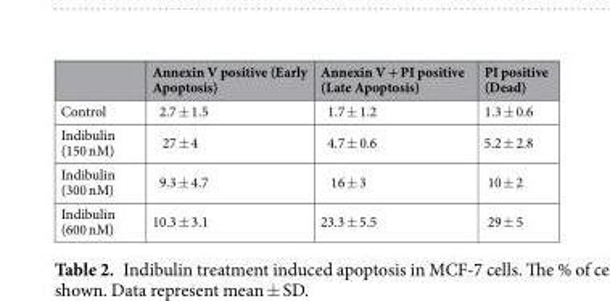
<table><thead><tr><td></td><td>Annexin V positive (Early Apoptosis)</td><td>Annexin V + PI positive (Late Apoptosis)</td><td>PI positive (Dead)</td></tr></thead><tbody><tr><td>Control</td><td>2.7 ± 1.5</td><td>1.7 ± 1.2</td><td>1.3 ± 0.6</td></tr><tr><td>Indibulin (150 nM)</td><td>27 ± 4</td><td>4.7 ± 0.6</td><td>5.2 ± 2.8</td></tr><tr><td>Indibulin (300 nM)</td><td>9.3 ± 4.7</td><td>16 ± 3</td><td>10 ± 2</td></tr><tr><td>Indibulin (600 nM)</td><td>10.3 ± 3.1</td><td>23.3 ± 5.5</td><td>29 ± 5</td></tr></tbody></table>